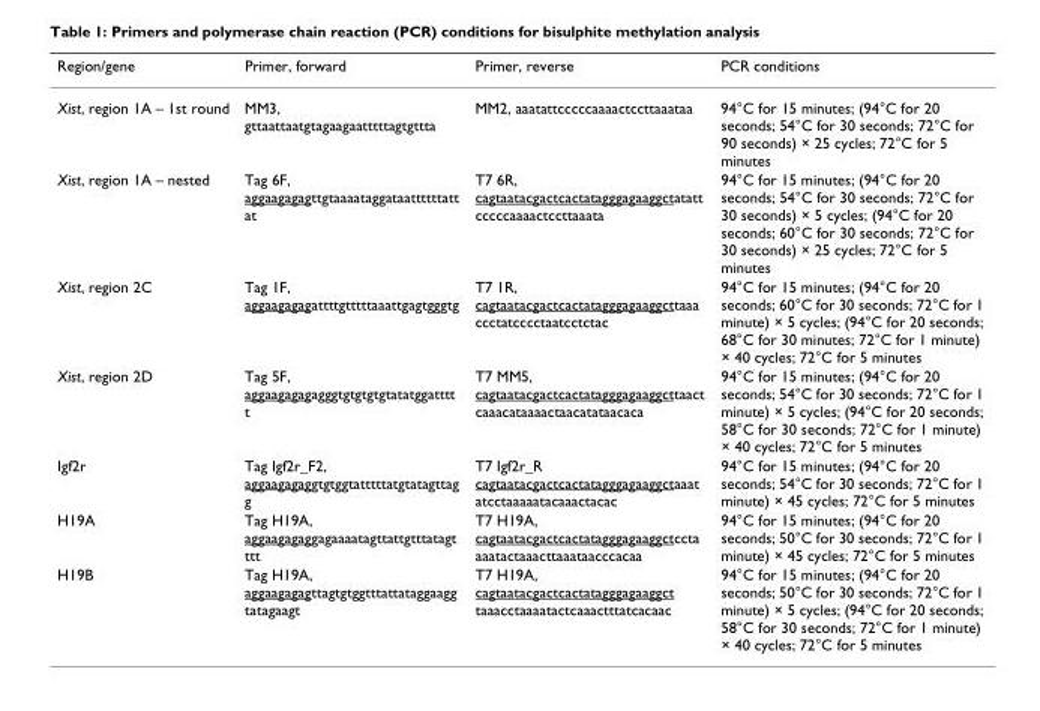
<table><thead><tr><td>Region/gene</td><td>Primer, forward</td><td>Primer, reverse</td><td>PCR conditions</td></tr></thead><tbody><tr><td>Xist, region 1A – 1st round</td><td>MM3, gttaattaatgtagaagaatttttagtgttta</td><td>MM2, aaatattcccccaaaactccttaaataa</td><td>94°C for 15 minutes; (94°C for 20 seconds; 54°C for 30 seconds; 72°C for 90 seconds) × 25 cycles; 72°C for 5 minutes</td></tr><tr><td>Xist, region 1A – nested</td><td>Tag 6F, aggaagagagttgtaaaataggataattttttatt at</td><td>T7 6R, cagtaatacgactcactatagggagaaggctatatt cccccaaaactccttaaata</td><td>94°C for 15 minutes; (94°C for 20 seconds; 54°C for 30 seconds; 72°C for 30 seconds) × 5 cycles; (94°C for 20 seconds; 60°C for 30 seconds; 72°C for 30 seconds) × 25 cycles; 72°C for 5 minutes</td></tr><tr><td>Xist, region 2C</td><td>Tag 1F, aggaagagagattttgtttttaaattgagtgggtg</td><td>T7 1R, cagtaatacgactcactatagggagaaggcttaaa ccctatcccctaatcctctac</td><td>94°C for 15 minutes; (94°C for 20 seconds; 60°C for 30 seconds; 72°C for 1 minute) × 5 cycles; (94°C for 20 seconds; 68°C for 30 minutes; 72°C for 1 minute) × 40 cycles; 72°C for 5 minutes</td></tr><tr><td>Xist, region 2D</td><td>Tag 5F, aggaagagagagggtgtgtgtgtatatggatttt t</td><td>T7 MM5, cagtaatacgactcactatagggagaaggcttaact caaacataaaactaacatataacaca</td><td>94°C for 15 minutes; (94°C for 20 seconds; 54°C for 30 seconds; 72°C for 1 minute) × 5 cycles; (94°C for 20 seconds; 58°C for 30 seconds; 72°C for 1 minute) × 40 cycles; 72°C for 5 minutes</td></tr><tr><td>Igf2r</td><td>Tag Igf2r_F2, aggaagagaggtgtggtatttttatgtatagttag g</td><td>T7 Igf2r_R cagtaatacgactcactatagggagaaggctaaat atcctaaaaatacaaactacac</td><td>94°C for 15 minutes; (94°C for 20 seconds; 54°C for 30 seconds; 72°C for 1 minute) × 45 cycles; 72°C for 5 minutes</td></tr><tr><td>H19A</td><td>Tag H19A, aggaagagaggagaaaatagttattgtttatagt ttt</td><td>T7 H19A, cagtaatacgactcactatagggagaaggctccta aaatactaaacttaaataacccacaa</td><td>94°C for 15 minutes; (94°C for 20 seconds; 50°C for 30 seconds; 72°C for 1 minute) × 45 cycles; 72°C for 5 minutes</td></tr><tr><td>H19B</td><td>Tag H19A, aggaagagagttagtgtggtttattataggaagg tatagaagt</td><td>T7 H19A, cagtaatacgactcactatagggagaaggct taaacctaaaatactcaaactttatcacaac</td><td>94°C for 15 minutes; (94°C for 20 seconds; 50°C for 30 seconds; 72°C for 1 minute) × 5 cycles; (94°C for 20 seconds; 58°C for 30 seconds; 72°C for 1 minute) × 40 cycles; 72°C for 5 minutes</td></tr></tbody></table>